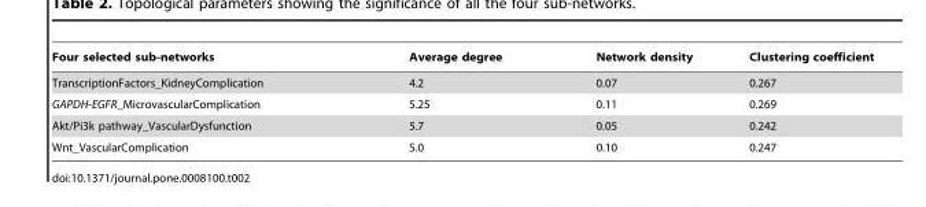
<table><thead><tr><td>Four selected sub-networks</td><td>Average degree</td><td>Network density</td><td>Clustering coefficient</td></tr></thead><tbody><tr><td>TranscriptionFactors_KidneyComplication</td><td>4.2</td><td>0.07</td><td>0.267</td></tr><tr><td>GAPDH-EGFR_MicrovascularComplication</td><td>5.25</td><td>0.11</td><td>0.269</td></tr><tr><td>Akt/Pi3k pathway_VascularDysfunction</td><td>5.7</td><td>0.05</td><td>0.242</td></tr><tr><td>Wnt_VascularComplication</td><td>5.0</td><td>0.10</td><td>0.247</td></tr></tbody></table>